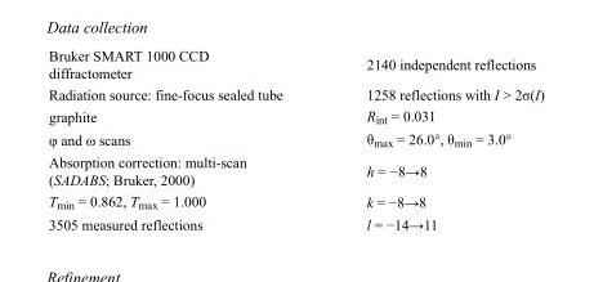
<table><tbody><tr><td>Bruker SMART 1000 CCD diffractometer</td><td>2140 independent reflections</td></tr><tr><td>Radiation source: fine-focus sealed tube</td><td>1258 reflections with I &gt; 2σ(I)</td></tr><tr><td>graphite</td><td>R<sub>int</sub> = 0.031</td></tr><tr><td>φ and ω scans</td><td>θ<sub>max</sub> = 26.0°, θ<sub>min</sub> = 3.0°</td></tr><tr><td>Absorption correction: multi-scan (SADABS; Bruker, 2000)</td><td>h = −8→8</td></tr><tr><td>T<sub>min</sub> = 0.862, T<sub>max</sub> = 1.000</td><td>k = −8→8</td></tr><tr><td>3505 measured reflections</td><td>l = −14→11</td></tr></tbody></table>